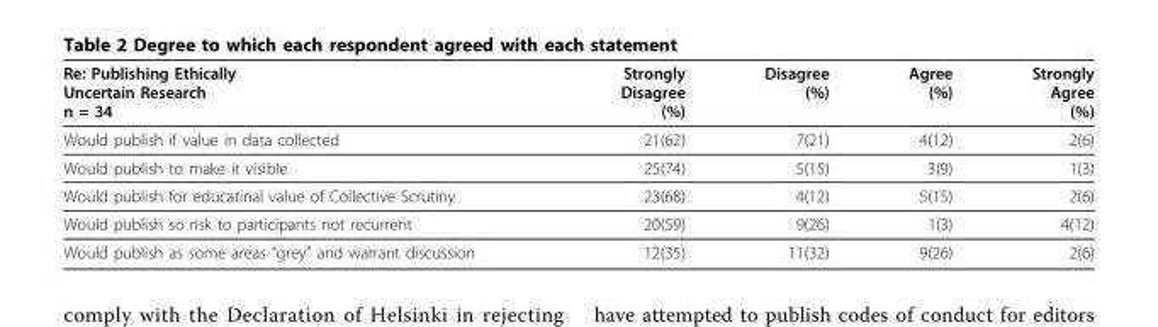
<table><thead><tr><td>Re: Publishing Ethically Uncertain Research n = 34</td><td>Strongly Disagree (%)</td><td>Disagree (%)</td><td>Agree (%)</td><td>Strongly Agree (%)</td></tr></thead><tbody><tr><td>Would publish if value in data collected</td><td>21(62)</td><td>7(21)</td><td>4(12)</td><td>2(6)</td></tr><tr><td>Would publish to make it visible</td><td>25(74)</td><td>5(15)</td><td>3(9)</td><td>1(3)</td></tr><tr><td>Would publish for educatinal value of Collective Scrutiny</td><td>23(68)</td><td>4(12)</td><td>5(15)</td><td>2(6)</td></tr><tr><td>Would publish so risk to participants not recurrent</td><td>20(59)</td><td>9(26)</td><td>1(3)</td><td>4(12)</td></tr><tr><td>Would publish as some areas “grey” and warrant discussion</td><td>12(35)</td><td>11(32)</td><td>9(26)</td><td>2(6)</td></tr></tbody></table>